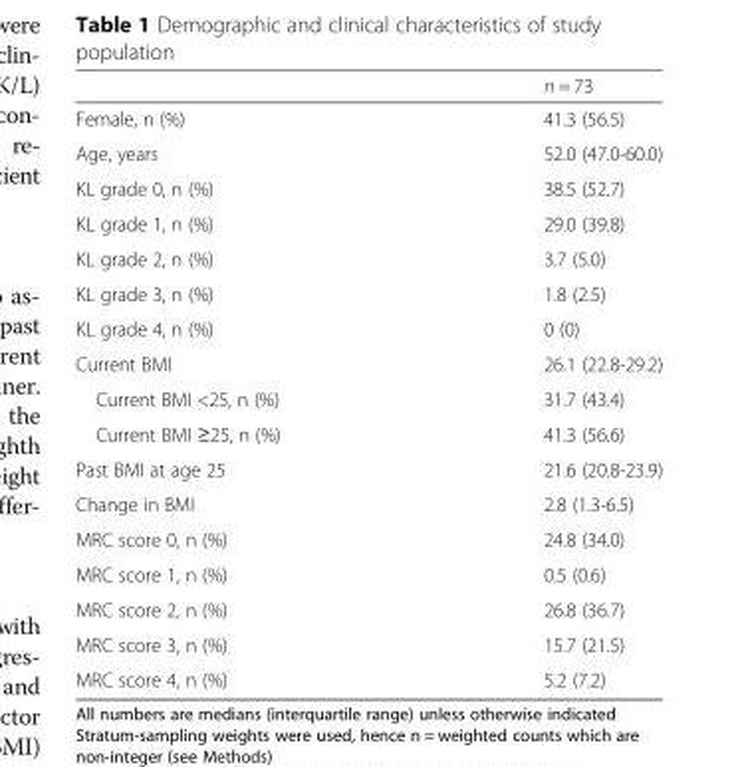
<table><thead><tr><td></td><td>n = 73</td></tr></thead><tbody><tr><td>Female, n (%)</td><td>41.3 (56.5)</td></tr><tr><td>Age, years</td><td>52.0 (47.0-60.0)</td></tr><tr><td>KL grade 0, n (%)</td><td>38.5 (52.7)</td></tr><tr><td>KL grade 1, n (%)</td><td>29.0 (39.8)</td></tr><tr><td>KL grade 2, n (%)</td><td>3.7 (5.0)</td></tr><tr><td>KL grade 3, n (%)</td><td>1.8 (2.5)</td></tr><tr><td>KL grade 4, n (%)</td><td>0 (0)</td></tr><tr><td>Current BMI</td><td>26.1 (22.8-29.2)</td></tr><tr><td>Current BMI &lt;25, n (%)</td><td>31.7 (43.4)</td></tr><tr><td>Current BMI ≥25, n (%)</td><td>41.3 (56.6)</td></tr><tr><td>Past BMI at age 25</td><td>21.6 (20.8-23.9)</td></tr><tr><td>Change in BMI</td><td>2.8 (1.3-6.5)</td></tr><tr><td>MRC score 0, n (%)</td><td>24.8 (34.0)</td></tr><tr><td>MRC score 1, n (%)</td><td>0.5 (0.6)</td></tr><tr><td>MRC score 2, n (%)</td><td>26.8 (36.7)</td></tr><tr><td>MRC score 3, n (%)</td><td>15.7 (21.5)</td></tr><tr><td>MRC score 4, n (%)</td><td>5.2 (7.2)</td></tr></tbody></table>